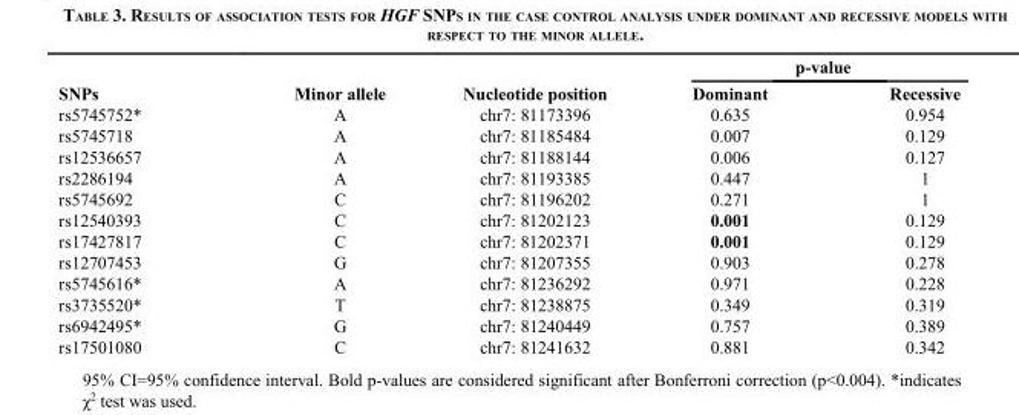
<table><thead><tr><td rowspan="2">SNPs</td><td rowspan="2">Minor allele</td><td rowspan="2">Nucleotide position</td><td colspan="2">p-value</td></tr><tr><td>Dominant</td><td>Recessive</td></tr></thead><tbody><tr><td>rs5745752*</td><td>A</td><td>chr7: 81173396</td><td>0.635</td><td>0.954</td></tr><tr><td>rs5745718</td><td>A</td><td>chr7: 81185484</td><td>0.007</td><td>0.129</td></tr><tr><td>rs12536657</td><td>A</td><td>chr7: 81188144</td><td>0.006</td><td>0.127</td></tr><tr><td>rs2286194</td><td>A</td><td>chr7: 81193385</td><td>0.447</td><td>1</td></tr><tr><td>rs5745692</td><td>C</td><td>chr7: 81196202</td><td>0.271</td><td>1</td></tr><tr><td>rs12540393</td><td>C</td><td>chr7: 81202123</td><td>0.001</td><td>0.129</td></tr><tr><td>rs17427817</td><td>C</td><td>chr7: 81202371</td><td>0.001</td><td>0.129</td></tr><tr><td>rs12707453</td><td>G</td><td>chr7: 81207355</td><td>0.903</td><td>0.278</td></tr><tr><td>rs5745616*</td><td>A</td><td>chr7: 81236292</td><td>0.971</td><td>0.228</td></tr><tr><td>rs3735520*</td><td>T</td><td>chr7: 81238875</td><td>0.349</td><td>0.319</td></tr><tr><td>rs6942495*</td><td>G</td><td>chr7: 81240449</td><td>0.757</td><td>0.389</td></tr><tr><td>rs17501080</td><td>C</td><td>chr7: 81241632</td><td>0.881</td><td>0.342</td></tr></tbody></table>